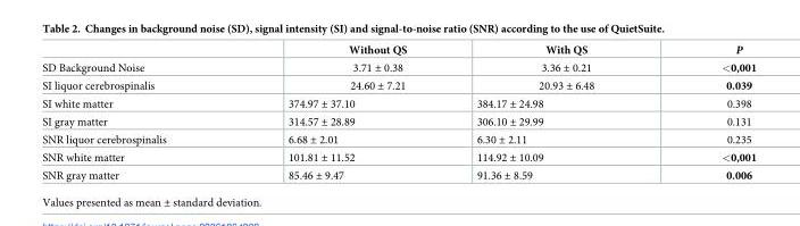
<table><thead><tr><td></td><td>Without QS</td><td>With QS</td><td>P</td></tr></thead><tbody><tr><td>SD Background Noise</td><td>3.71 ± 0.38</td><td>3.36 ± 0.21</td><td>&lt;0,001</td></tr><tr><td>SI liquor cerebrospinalis</td><td>24.60 ± 7.21</td><td>20.93 ± 6.48</td><td>0.039</td></tr><tr><td>SI white matter</td><td>374.97 ± 37.10</td><td>384.17 ± 24.98</td><td>0.398</td></tr><tr><td>SI gray matter</td><td>314.57 ± 28.89</td><td>306.10 ± 29.99</td><td>0.131</td></tr><tr><td>SNR liquor cerebrospinalis</td><td>6.68 ± 2.01</td><td>6.30 ± 2.11</td><td>0.235</td></tr><tr><td>SNR white matter</td><td>101.81 ± 11.52</td><td>114.92 ± 10.09</td><td>&lt;0,001</td></tr><tr><td>SNR gray matter</td><td>85.46 ± 9.47</td><td>91.36 ± 8.59</td><td>0.006</td></tr></tbody></table>